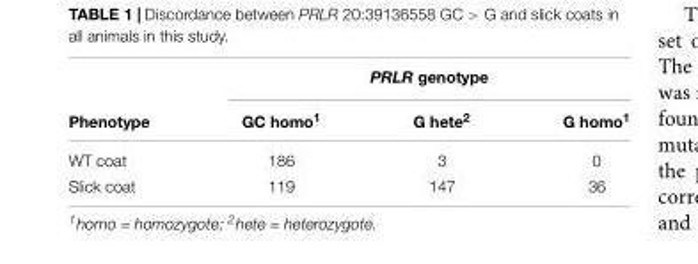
<table><thead><tr><td rowspan="2">Phenotype</td><td colspan="3">PRLR genotype</td></tr><tr><td>GC homo<sup>1</sup></td><td>G hete<sup>2</sup></td><td>G homo<sup>1</sup></td></tr></thead><tbody><tr><td>WT coat</td><td>186</td><td>3</td><td>0</td></tr><tr><td>Slick coat</td><td>119</td><td>147</td><td>36</td></tr></tbody></table>